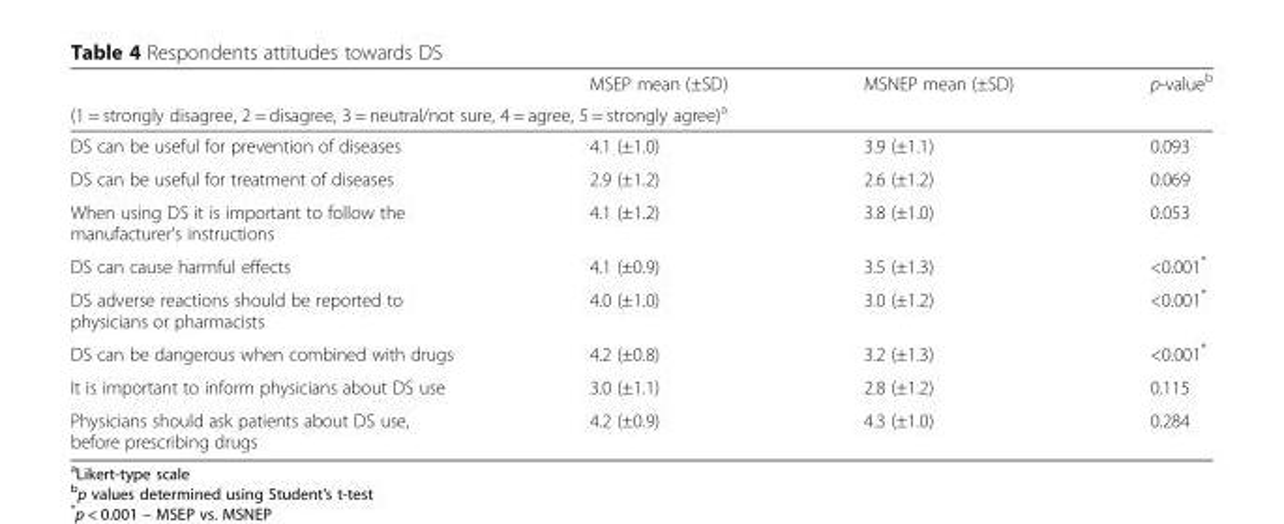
<table><thead><tr><td></td><td>MSEP mean (±SD)</td><td>MSNEP mean (±SD)</td><td>p-value<sup>b</sup></td></tr><tr><td colspan="4">(1 = strongly disagree, 2 = disagree, 3 = neutral/not sure, 4 = agree, 5 = strongly agree)<sup>a</sup></td></tr></thead><tbody><tr><td>DS can be useful for prevention of diseases</td><td>4.1 (±1.0)</td><td>3.9 (±1.1)</td><td>0.093</td></tr><tr><td>DS can be useful for treatment of diseases</td><td>2.9 (±1.2)</td><td>2.6 (±1.2)</td><td>0.069</td></tr><tr><td>When using DS it is important to follow the manufacturer’s instructions</td><td>4.1 (±1.2)</td><td>3.8 (±1.0)</td><td>0.053</td></tr><tr><td>DS can cause harmful effects</td><td>4.1 (±0.9)</td><td>3.5 (±1.3)</td><td>&lt;0.001*</td></tr><tr><td>DS adverse reactions should be reported to physicians or pharmacists</td><td>4.0 (±1.0)</td><td>3.0 (±1.2)</td><td>&lt;0.001*</td></tr><tr><td>DS can be dangerous when combined with drugs</td><td>4.2 (±0.8)</td><td>3.2 (±1.3)</td><td>&lt;0.001*</td></tr><tr><td>It is important to inform physicians about DS use</td><td>3.0 (±1.1)</td><td>2.8 (±1.2)</td><td>0.115</td></tr><tr><td>Physicians should ask patients about DS use, before prescribing drugs</td><td>4.2 (±0.9)</td><td>4.3 (±1.0)</td><td>0.284</td></tr></tbody></table>